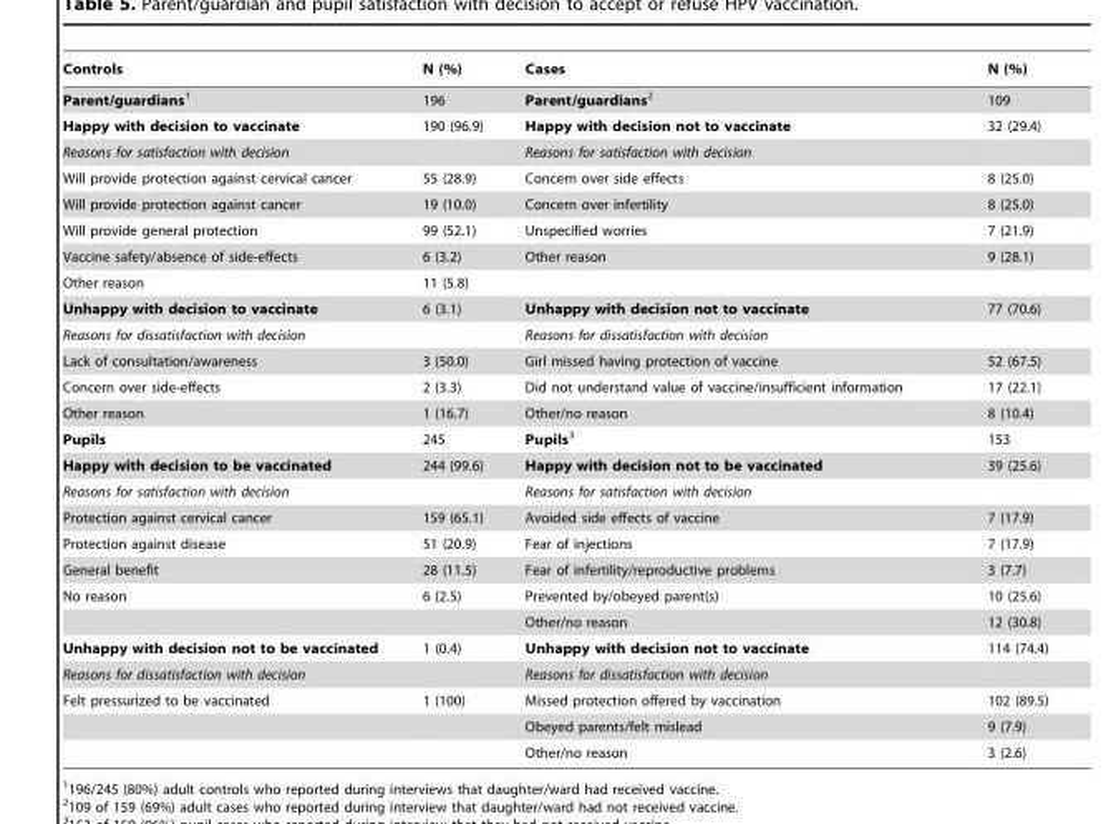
<table><thead><tr><td>Controls</td><td>N (%)</td><td>Cases</td><td>N (%)</td></tr></thead><tbody><tr><td>Parent/guardians1</td><td>196</td><td>Parent/guardians2</td><td>109</td></tr><tr><td>Happy with decision to vaccinate</td><td>190 (96.9)</td><td>Happy with decision not to vaccinate</td><td>32 (29.4)</td></tr><tr><td>Reasons for satisfaction with decision</td><td></td><td>Reasons for satisfaction with decision</td><td></td></tr><tr><td>Will provide protection against cervical cancer</td><td>55 (28.9)</td><td>Concern over side effects</td><td>8 (25.0)</td></tr><tr><td>Will provide protection against cancer</td><td>19 (10.0)</td><td>Concern over infertility</td><td>8 (25.0)</td></tr><tr><td>Will provide general protection</td><td>99 (52.1)</td><td>Unspecified worries</td><td>7 (21.9)</td></tr><tr><td>Vaccine safety/absence of side-effects</td><td>6 (3.2)</td><td>Other reason</td><td>9 (28.1)</td></tr><tr><td>Other reason</td><td>11 (5.8)</td><td></td><td></td></tr><tr><td>Unhappy with decision to vaccinate</td><td>6 (3.1)</td><td>Unhappy with decision not to vaccinate</td><td>77 (70.6)</td></tr><tr><td>Reasons for dissatisfaction with decision</td><td></td><td>Reasons for dissatisfaction with decision</td><td></td></tr><tr><td>Lack of consultation/awareness</td><td>3 (50.0)</td><td>Girl missed having protection of vaccine</td><td>52 (67.5)</td></tr><tr><td>Concern over side-effects</td><td>2 (3.3)</td><td>Did not understand value of vaccine/insufficient information</td><td>17 (22.1)</td></tr><tr><td>Other reason</td><td>1 (16.7)</td><td>Other/no reason</td><td>8 (10.4)</td></tr><tr><td>Pupils</td><td>245</td><td>Pupils3</td><td>153</td></tr><tr><td>Happy with decision to be vaccinated</td><td>244 (99.6)</td><td>Happy with decision not to be vaccinated</td><td>39 (25.6)</td></tr><tr><td>Reasons for satisfaction with decision</td><td></td><td>Reasons for satisfaction with decision</td><td></td></tr><tr><td>Protection against cervical cancer</td><td>159 (65.1)</td><td>Avoided side effects of vaccine</td><td>7 (17.9)</td></tr><tr><td>Protection against disease</td><td>51 (20.9)</td><td>Fear of injections</td><td>7 (17.9)</td></tr><tr><td>General benefit</td><td>28 (11.5)</td><td>Fear of infertility/reproductive problems</td><td>3 (7.7)</td></tr><tr><td rowspan="2">No reason</td><td>6 (2.5)</td><td>Prevented by/obeyed parent(s)</td><td>10 (25.6)</td></tr><tr><td></td><td>Other/no reason</td><td>12 (30.8)</td></tr><tr><td>Unhappy with decision not to be vaccinated</td><td>1 (0.4)</td><td>Unhappy with decision not to vaccinate</td><td>114 (74.4)</td></tr><tr><td>Reasons for dissatisfaction with decision</td><td></td><td>Reasons for dissatisfaction with decision</td><td></td></tr><tr><td rowspan="3">Felt pressurized to be vaccinated</td><td>1 (100)</td><td>Missed protection offered by vaccination</td><td>102 (89.5)</td></tr><tr><td></td><td>Obeyed parents/felt mislead</td><td>9 (7.9)</td></tr><tr><td></td><td>Other/no reason</td><td>3 (2.6)</td></tr></tbody></table>